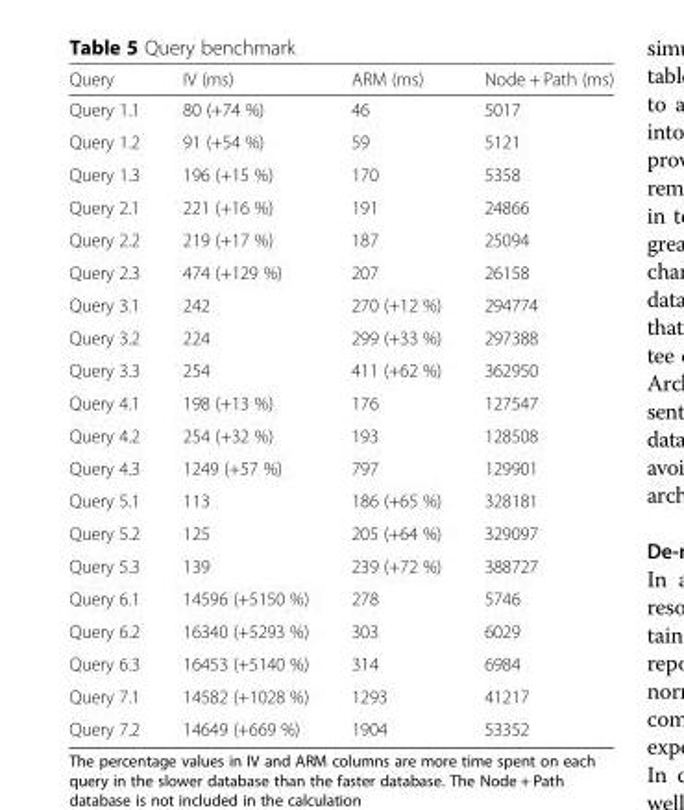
<table><thead><tr><td>Query</td><td>IV (ms)</td><td>ARM (ms)</td><td>Node + Path (ms)</td></tr></thead><tbody><tr><td>Query 1.1</td><td>80 (+74 %)</td><td>46</td><td>5017</td></tr><tr><td>Query 1.2</td><td>91 (+54 %)</td><td>59</td><td>5121</td></tr><tr><td>Query 1.3</td><td>196 (+15 %)</td><td>170</td><td>5358</td></tr><tr><td>Query 2.1</td><td>221 (+16 %)</td><td>191</td><td>24866</td></tr><tr><td>Query 2.2</td><td>219 (+17 %)</td><td>187</td><td>25094</td></tr><tr><td>Query 2.3</td><td>474 (+129 %)</td><td>207</td><td>26158</td></tr><tr><td>Query 3.1</td><td>242</td><td>270 (+12 %)</td><td>294774</td></tr><tr><td>Query 3.2</td><td>224</td><td>299 (+33 %)</td><td>297388</td></tr><tr><td>Query 3.3</td><td>254</td><td>411 (+62 %)</td><td>362950</td></tr><tr><td>Query 4.1</td><td>198 (+13 %)</td><td>176</td><td>127547</td></tr><tr><td>Query 4.2</td><td>254 (+32 %)</td><td>193</td><td>128508</td></tr><tr><td>Query 4.3</td><td>1249 (+57 %)</td><td>797</td><td>129901</td></tr><tr><td>Query 5.1</td><td>113</td><td>186 (+65 %)</td><td>328181</td></tr><tr><td>Query 5.2</td><td>125</td><td>205 (+64 %)</td><td>329097</td></tr><tr><td>Query 5.3</td><td>139</td><td>239 (+72 %)</td><td>388727</td></tr><tr><td>Query 6.1</td><td>14596 (+5150 %)</td><td>278</td><td>5746</td></tr><tr><td>Query 6.2</td><td>16340 (+5293 %)</td><td>303</td><td>6029</td></tr><tr><td>Query 6.3</td><td>16453 (+5140 %)</td><td>314</td><td>6984</td></tr><tr><td>Query 7.1</td><td>14582 (+1028 %)</td><td>1293</td><td>41217</td></tr><tr><td>Query 7.2</td><td>14649 (+669 %)</td><td>1904</td><td>53352</td></tr></tbody></table>